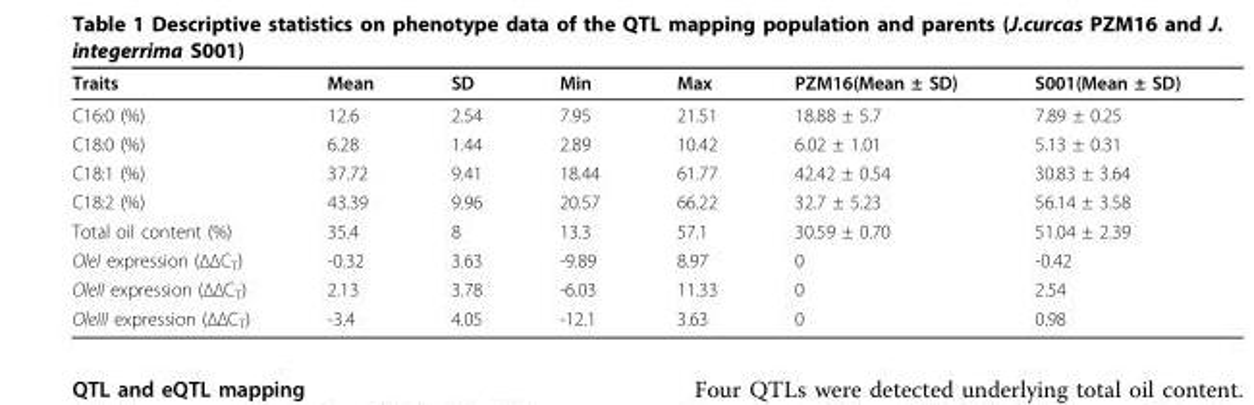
<table><thead><tr><td>Traits</td><td>Mean</td><td>SD</td><td>Min</td><td>Max</td><td>PZM16(Mean ± SD)</td><td>S001(Mean ± SD)</td></tr></thead><tbody><tr><td>C16:0 (%)</td><td>12.6</td><td>2.54</td><td>7.95</td><td>21.51</td><td>18.88 ± 5.7</td><td>7.89 ± 0.25</td></tr><tr><td>C18:0 (%)</td><td>6.28</td><td>1.44</td><td>2.89</td><td>10.42</td><td>6.02 ± 1.01</td><td>5.13 ± 0.31</td></tr><tr><td>C18:1 (%)</td><td>37.72</td><td>9.41</td><td>18.44</td><td>61.77</td><td>42.42 ± 0.54</td><td>30.83 ± 3.64</td></tr><tr><td>C18:2 (%)</td><td>43.39</td><td>9.96</td><td>20.57</td><td>66.22</td><td>32.7 ± 5.23</td><td>56.14 ± 3.58</td></tr><tr><td>Total oil content (%)</td><td>35.4</td><td>8</td><td>13.3</td><td>57.1</td><td>30.59 ± 0.70</td><td>51.04 ± 2.39</td></tr><tr><td>OleI expression (ΔΔC<sub>T</sub>)</td><td>-0.32</td><td>3.63</td><td>-9.89</td><td>8.97</td><td>0</td><td>-0.42</td></tr><tr><td>OleII expression (ΔΔC<sub>T</sub>)</td><td>2.13</td><td>3.78</td><td>-6.03</td><td>11.33</td><td>0</td><td>2.54</td></tr><tr><td>OleIII expression (ΔΔC<sub>T</sub>)</td><td>-3.4</td><td>4.05</td><td>-12.1</td><td>3.63</td><td>0</td><td>0.98</td></tr></tbody></table>